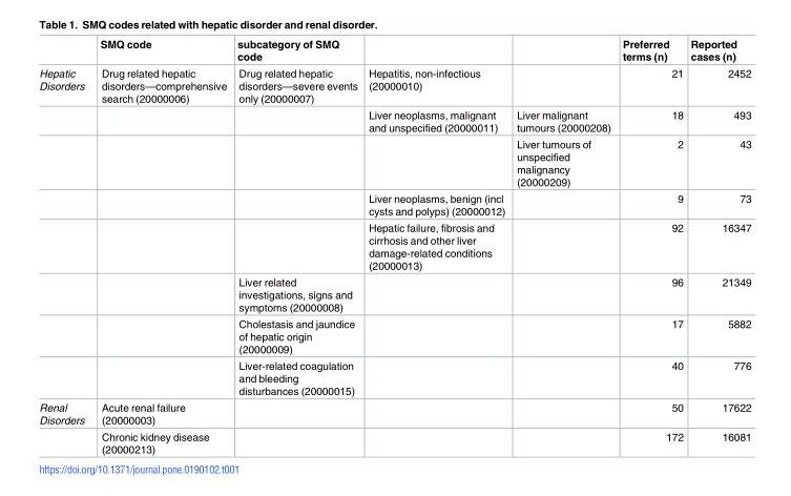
<table><thead><tr><td></td><td>SMQ code</td><td>subcategory of SMQ code</td><td></td><td></td><td>Preferred terms (n)</td><td>Reported cases (n)</td></tr></thead><tbody><tr><td rowspan="8">Hepatic Disorders</td><td>Drug related hepatic disorders—comprehensive search (20000006)</td><td>Drug related hepatic disorders—severe events only (20000007)</td><td>Hepatitis, non-infectious (20000010)</td><td></td><td>21</td><td>2452</td></tr><tr><td></td><td></td><td>Liver neoplasms, malignant and unspecified (20000011)</td><td>Liver malignant tumours (20000208)</td><td>18</td><td>493</td></tr><tr><td></td><td></td><td></td><td>Liver tumours of unspecified malignancy (20000209)</td><td>2</td><td>43</td></tr><tr><td></td><td></td><td>Liver neoplasms, benign (incl cysts and polyps) (20000012)</td><td></td><td>9</td><td>73</td></tr><tr><td></td><td></td><td>Hepatic failure, fibrosis and cirrhosis and other liver damage-related conditions (20000013)</td><td></td><td>92</td><td>16347</td></tr><tr><td></td><td>Liver related investigations, signs and symptoms (20000008)</td><td></td><td></td><td>96</td><td>21349</td></tr><tr><td></td><td>Cholestasis and jaundice of hepatic origin (20000009)</td><td></td><td></td><td>17</td><td>5882</td></tr><tr><td></td><td>Liver-related coagulation and bleeding disturbances (20000015)</td><td></td><td></td><td>40</td><td>776</td></tr><tr><td rowspan="2">Renal Disorders</td><td>Acute renal failure (20000003)</td><td></td><td></td><td></td><td>50</td><td>17622</td></tr><tr><td>Chronic kidney disease (20000213)</td><td></td><td></td><td></td><td>172</td><td>16081</td></tr></tbody></table>